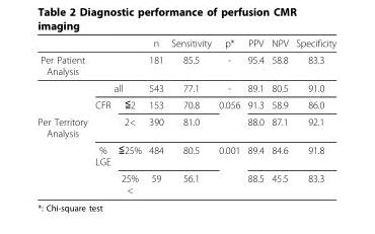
<table><thead><tr><td></td><td></td><td></td><td>n</td><td>Sensitivity</td><td>p*</td><td>PPV</td><td>NPV</td><td>Specificity</td></tr></thead><tbody><tr><td rowspan="3">Per Patient Analysis</td><td></td><td></td><td>181</td><td>85.5</td><td>-</td><td>95.4</td><td>58.8</td><td>83.3</td></tr><tr><td colspan="2">all</td><td>543</td><td>77.1</td><td>-</td><td>89.1</td><td>80.5</td><td>91.0</td></tr><tr><td>CFR</td><td>≦2</td><td>153</td><td>70.8</td><td>0.056</td><td>91.3</td><td>58.9</td><td>86.0</td></tr><tr><td rowspan="3">Per Territory Analysis</td><td></td><td>2&lt;</td><td>390</td><td>81.0</td><td></td><td>88.0</td><td>87.1</td><td>92.1</td></tr><tr><td>% LGE</td><td>≦25%</td><td>484</td><td>80.5</td><td>0.001</td><td>89.4</td><td>84.6</td><td>91.8</td></tr><tr><td></td><td>25% &lt;</td><td>59</td><td>56.1</td><td></td><td>88.5</td><td>45.5</td><td>83.3</td></tr></tbody></table>